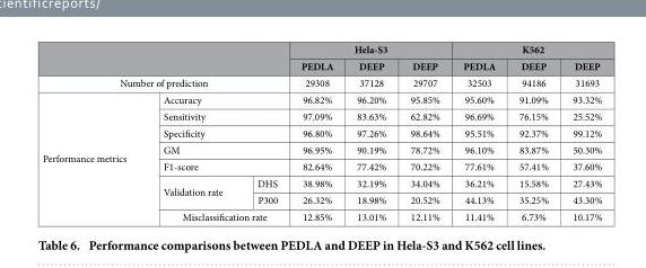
<table><thead><tr><td rowspan="2"></td><td rowspan="2"></td><td rowspan="2"></td><td colspan="3">Hela-S3</td><td colspan="3">K562</td></tr><tr><td>PEDLA</td><td>DEEP</td><td>DEEP</td><td>PEDLA</td><td>DEEP</td><td>DEEP</td></tr></thead><tbody><tr><td colspan="3">Number of prediction</td><td>29308</td><td>37128</td><td>29707</td><td>32503</td><td>94186</td><td>31693</td></tr><tr><td rowspan="8">Performance metrics</td><td colspan="2">Accuracy</td><td>96.82%</td><td>96.20%</td><td>95.85%</td><td>95.60%</td><td>91.09%</td><td>93.32%</td></tr><tr><td colspan="2">Sensitivity</td><td>97.09%</td><td>83.63%</td><td>62.82%</td><td>96.69%</td><td>76.15%</td><td>25.52%</td></tr><tr><td colspan="2">Specificity</td><td>96.80%</td><td>97.26%</td><td>98.64%</td><td>95.51%</td><td>92.37%</td><td>99.12%</td></tr><tr><td colspan="2">GM</td><td>96.95%</td><td>90.19%</td><td>78.72%</td><td>96.10%</td><td>83.87%</td><td>50.30%</td></tr><tr><td colspan="2">F1-score</td><td>82.64%</td><td>77.42%</td><td>70.22%</td><td>77.61%</td><td>57.41%</td><td>37.60%</td></tr><tr><td rowspan="2">Validation rate</td><td>DHS</td><td>38.98%</td><td>32.19%</td><td>34.04%</td><td>36.21%</td><td>15.58%</td><td>27.43%</td></tr><tr><td>P300</td><td>26.32%</td><td>18.98%</td><td>20.52%</td><td>44.13%</td><td>35.25%</td><td>43.30%</td></tr><tr><td colspan="2">Misclassification rate</td><td>12.85%</td><td>13.01%</td><td>12.11%</td><td>11.41%</td><td>6.73%</td><td>10.17%</td></tr></tbody></table>